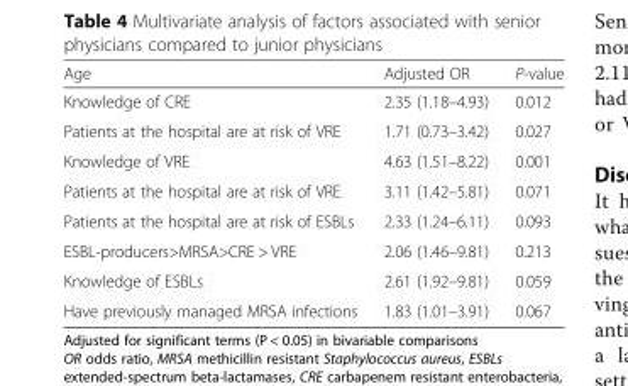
<table><thead><tr><td>Age</td><td>Adjusted OR</td><td>P-value</td></tr></thead><tbody><tr><td>Knowledge of CRE</td><td>2.35 (1.18–4.93)</td><td>0.012</td></tr><tr><td>Patients at the hospital are at risk of VRE</td><td>1.71 (0.73–3.42)</td><td>0.027</td></tr><tr><td>Knowledge of VRE</td><td>4.63 (1.51–8.22)</td><td>0.001</td></tr><tr><td>Patients at the hospital are at risk of VRE</td><td>3.11 (1.42–5.81)</td><td>0.071</td></tr><tr><td>Patients at the hospital are at risk of ESBLs</td><td>2.33 (1.24–6.11)</td><td>0.093</td></tr><tr><td>ESBL-producers&gt;MRSA&gt;CRE &gt; VRE</td><td>2.06 (1.46–9.81)</td><td>0.213</td></tr><tr><td>Knowledge of ESBLs</td><td>2.61 (1.92–9.81)</td><td>0.059</td></tr><tr><td>Have previously managed MRSA infections</td><td>1.83 (1.01–3.91)</td><td>0.067</td></tr></tbody></table>